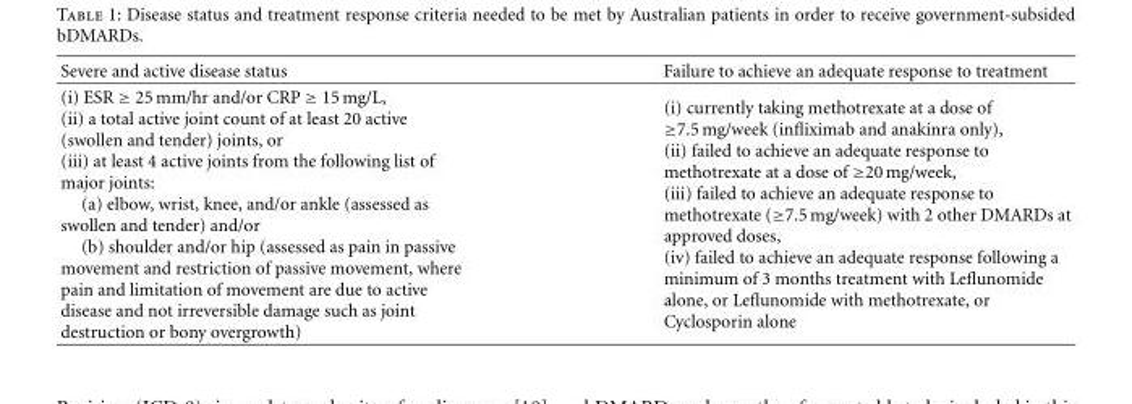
<table><thead><tr><td>Severe and active disease status</td><td>Failure to achieve an adequate response to treatment</td></tr></thead><tbody><tr><td>(i) ESR ≥ 25 mm/hr and/or CRP ≥ 15 mg/L, (ii) a total active joint count of at least 20 active (swollen and tender) joints, or (iii) at least 4 active joints from the following list of major joints: (a) elbow, wrist, knee, and/or ankle (assessed as swollen and tender) and/or (b) shoulder and/or hip (assessed as pain in passive movement and restriction of passive movement, where pain and limitation of movement are due to active disease and not irreversible damage such as joint destruction or bony overgrowth)</td><td>(i) currently taking methotrexate at a dose of ≥7.5 mg/week (infliximab and anakinra only), (ii) failed to achieve an adequate response to methotrexate at a dose of ≥20 mg/week, (iii) failed to achieve an adequate response to methotrexate (≥7.5 mg/week) with 2 other DMARDs at approved doses, (iv) failed to achieve an adequate response following a minimum of 3 months treatment with Leflunomide alone, or Leflunomide with methotrexate, or Cyclosporin alone</td></tr></tbody></table>